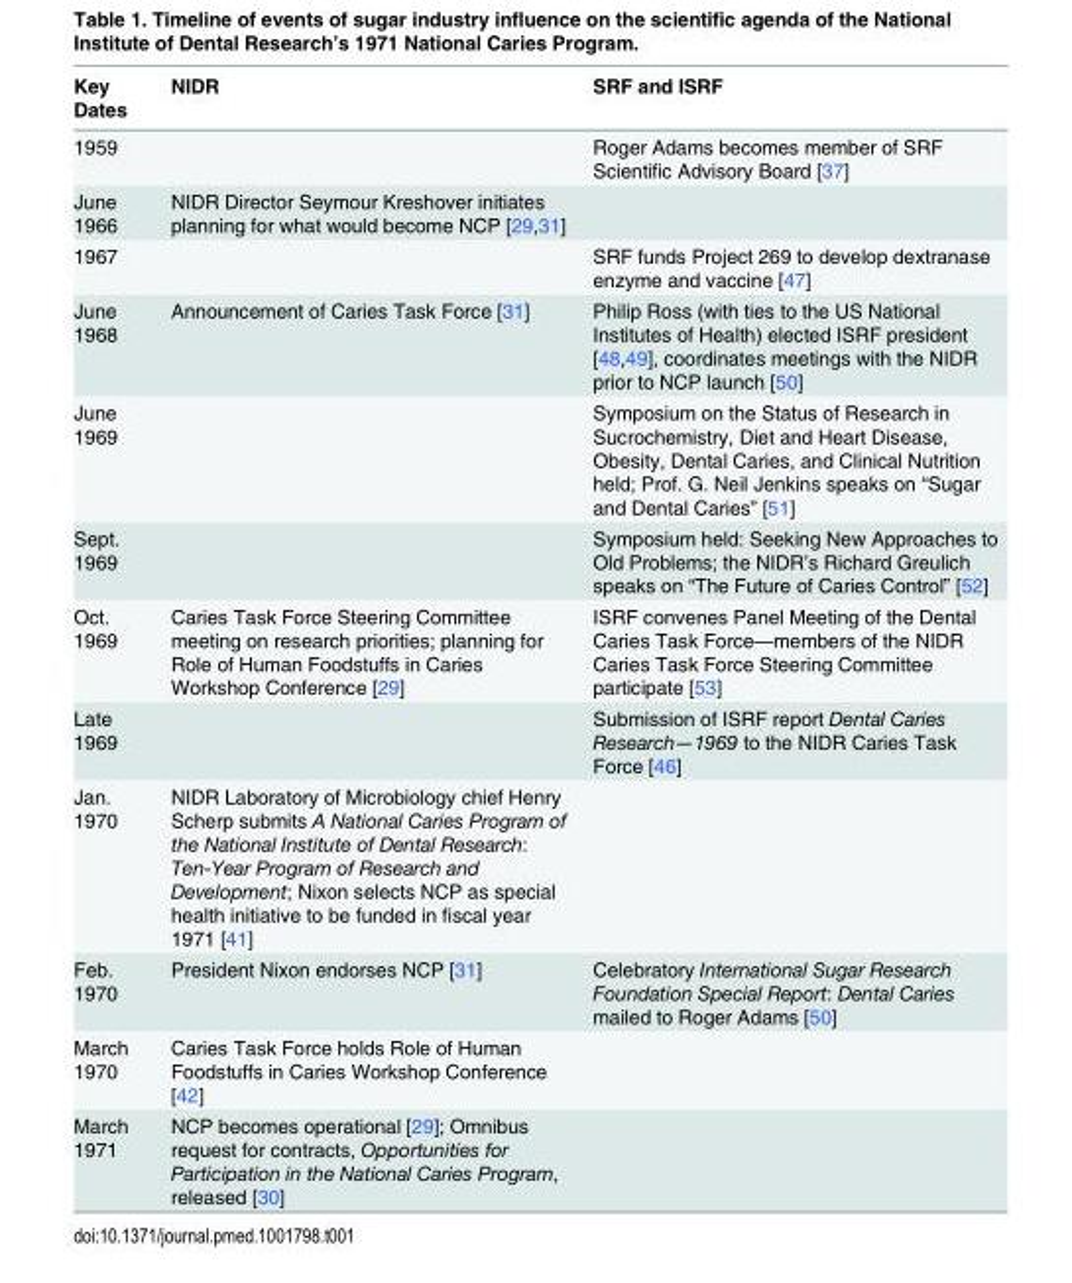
<table><thead><tr><td>Key Dates</td><td>NIDR</td><td>SRF and ISRF</td></tr></thead><tbody><tr><td>1959</td><td></td><td>Roger Adams becomes member of SRF Scientific Advisory Board [37]</td></tr><tr><td>June 1966</td><td>NIDR Director Seymour Kreshover initiates planning for what would become NCP [29,31]</td><td></td></tr><tr><td>1967</td><td></td><td>SRF funds Project 269 to develop dextranase enzyme and vaccine [47]</td></tr><tr><td>June 1968</td><td>Announcement of Caries Task Force [31]</td><td>Philip Ross (with ties to the US National Institutes of Health) elected ISRF president [48,49], coordinates meetings with the NIDR prior to NCP launch [50]</td></tr><tr><td>June 1969</td><td></td><td>Symposium on the Status of Research in Sucrochemistry, Diet and Heart Disease, Obesity, Dental Caries, and Clinical Nutrition held; Prof. G. Neil Jenkins speaks on “Sugar and Dental Caries” [51]</td></tr><tr><td>Sept. 1969</td><td></td><td>Symposium held: Seeking New Approaches to Old Problems; the NIDR’s Richard Greulich speaks on “The Future of Caries Control” [52]</td></tr><tr><td>Oct. 1969</td><td>Caries Task Force Steering Committee meeting on research priorities; planning for Role of Human Foodstuffs in Caries Workshop Conference [29]</td><td>ISRF convenes Panel Meeting of the Dental Caries Task Force—members of the NIDR Caries Task Force Steering Committee participate [53]</td></tr><tr><td>Late 1969</td><td></td><td>Submission of ISRF report Dental Caries Research—1969 to the NIDR Caries Task Force [46]</td></tr><tr><td>Jan. 1970</td><td>NIDR Laboratory of Microbiology chief Henry Scherp submits A National Caries Program of the National Institute of Dental Research: Ten-Year Program of Research and Development; Nixon selects NCP as special health initiative to be funded in fiscal year 1971 [41]</td><td></td></tr><tr><td>Feb. 1970</td><td>President Nixon endorses NCP [31]</td><td>Celebratory International Sugar Research Foundation Special Report: Dental Caries mailed to Roger Adams [50]</td></tr><tr><td>March 1970</td><td>Caries Task Force holds Role of Human Foodstuffs in Caries Workshop Conference [42]</td><td></td></tr><tr><td>March 1971</td><td>NCP becomes operational [29]; Omnibus request for contracts, Opportunities for Participation in the National Caries Program, released [30]</td><td></td></tr></tbody></table>